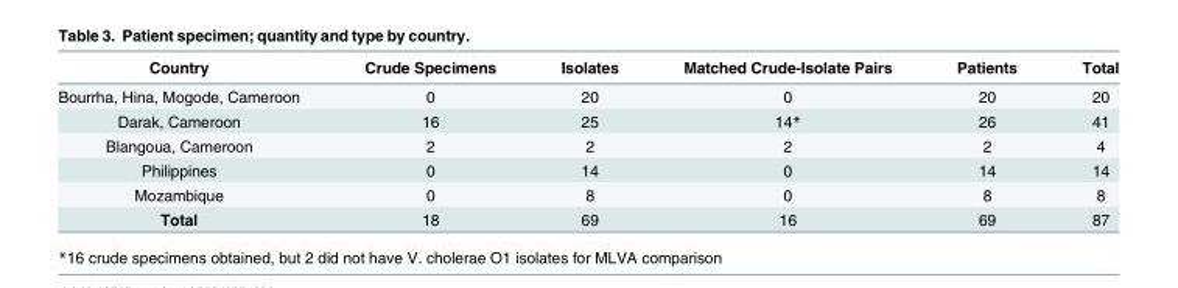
<table><thead><tr><td>Country</td><td>Crude Specimens</td><td>Isolates</td><td>Matched Crude-Isolate Pairs</td><td>Patients</td><td>Total</td></tr></thead><tbody><tr><td>Bourrha, Hina, Mogode, Cameroon</td><td>0</td><td>20</td><td>0</td><td>20</td><td>20</td></tr><tr><td>Darak, Cameroon</td><td>16</td><td>25</td><td>14*</td><td>26</td><td>41</td></tr><tr><td>Blangoua, Cameroon</td><td>2</td><td>2</td><td>2</td><td>2</td><td>4</td></tr><tr><td>Philippines</td><td>0</td><td>14</td><td>0</td><td>14</td><td>14</td></tr><tr><td>Mozambique</td><td>0</td><td>8</td><td>0</td><td>8</td><td>8</td></tr><tr><td>Total</td><td>18</td><td>69</td><td>16</td><td>69</td><td>87</td></tr></tbody></table>